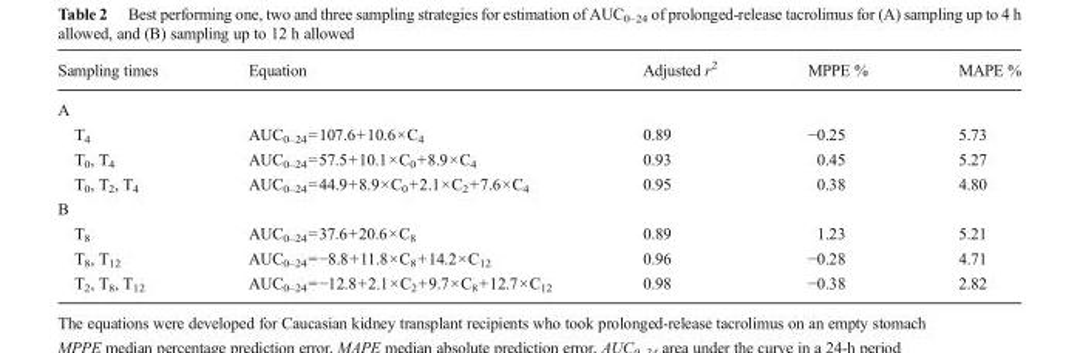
<table><thead><tr><td>Sampling times</td><td>Equation</td><td>Adjusted r<sup>2</sup></td><td>MPPE %</td><td>MAPE %</td></tr></thead><tbody><tr><td colspan="5">A</td></tr><tr><td>T<sub>4</sub></td><td>AUC<sub>0–24</sub>=107.6+10.6×C<sub>4</sub></td><td>0.89</td><td>−0.25</td><td>5.73</td></tr><tr><td>T<sub>0</sub>, T<sub>4</sub></td><td>AUC<sub>0–24</sub>=57.5+10.1×C<sub>0</sub>+8.9×C<sub>4</sub></td><td>0.93</td><td>0.45</td><td>5.27</td></tr><tr><td>T<sub>0</sub>, T<sub>2</sub>, T<sub>4</sub></td><td>AUC<sub>0–24</sub>=44.9+8.9×C<sub>0</sub>+2.1×C<sub>2</sub>+7.6×C<sub>4</sub></td><td>0.95</td><td>0.38</td><td>4.80</td></tr><tr><td colspan="5">B</td></tr><tr><td>T<sub>8</sub></td><td>AUC<sub>0–24</sub>=37.6+20.6×C<sub>8</sub></td><td>0.89</td><td>1.23</td><td>5.21</td></tr><tr><td>T<sub>8</sub>, T<sub>12</sub></td><td>AUC<sub>0–24</sub>=−8.8+11.8×C<sub>8</sub>+14.2×C<sub>12</sub></td><td>0.96</td><td>−0.28</td><td>4.71</td></tr><tr><td>T<sub>2</sub>, T<sub>8</sub>, T<sub>12</sub></td><td>AUC<sub>0–24</sub>=−12.8+2.1×C<sub>2</sub>+9.7×C<sub>8</sub>+12.7×C<sub>12</sub></td><td>0.98</td><td>−0.38</td><td>2.82</td></tr></tbody></table>